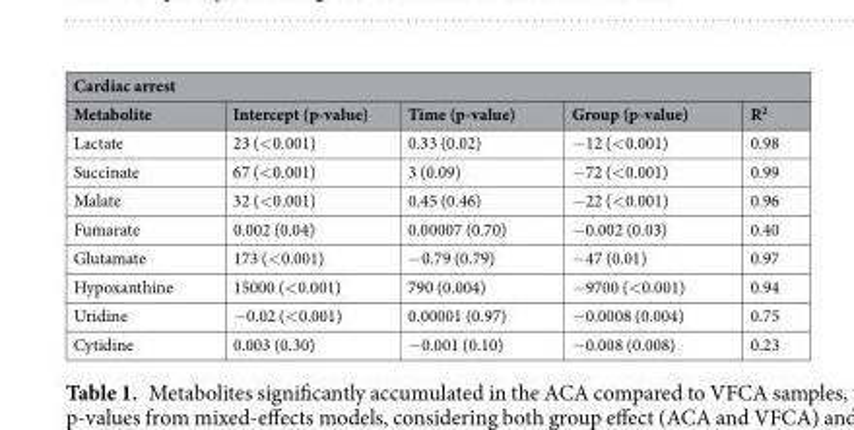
<table><thead><tr><td colspan="5">Cardiac arrest</td></tr><tr><td>Metabolite</td><td>Intercept (p-value)</td><td>Time (p-value)</td><td>Group (p-value)</td><td>R<sup>2</sup></td></tr></thead><tbody><tr><td>Lactate</td><td>23 (&lt;0.001)</td><td>0.33 (0.02)</td><td>−12 (&lt;0.001)</td><td>0.98</td></tr><tr><td>Succinate</td><td>67 (&lt;0.001)</td><td>3 (0.09)</td><td>−72 (&lt;0.001)</td><td>0.99</td></tr><tr><td>Malate</td><td>32 (&lt;0.001)</td><td>0.45 (0.46)</td><td>−22 (&lt;0.001)</td><td>0.96</td></tr><tr><td>Fumarate</td><td>0.002 (0.04)</td><td>0.00007 (0.70)</td><td>−0.002 (0.03)</td><td>0.40</td></tr><tr><td>Glutamate</td><td>173 (&lt;0.001)</td><td>−0.79 (0.79)</td><td>−47 (0.01)</td><td>0.97</td></tr><tr><td>Hypoxanthine</td><td>15000 (&lt;0.001)</td><td>790 (0.004)</td><td>−9700 (&lt;0.001)</td><td>0.94</td></tr><tr><td>Uridine</td><td>−0.02 (&lt;0.001)</td><td>0.00001 (0.97)</td><td>−0.0008 (0.004)</td><td>0.75</td></tr><tr><td>Cytidine</td><td>0.003 (0.30)</td><td>−0.001 (0.10)</td><td>−0.008 (0.008)</td><td>0.23</td></tr></tbody></table>